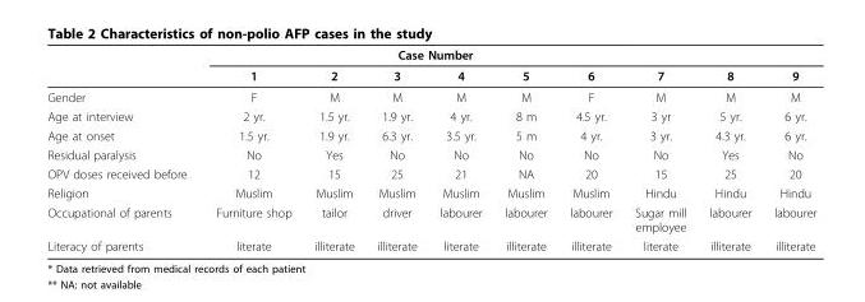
<table><thead><tr><td colspan="10">Case Number</td></tr><tr><td></td><td>1</td><td>2</td><td>3</td><td>4</td><td>5</td><td>6</td><td>7</td><td>8</td><td>9</td></tr></thead><tbody><tr><td>Gender</td><td>F</td><td>M</td><td>M</td><td>M</td><td>M</td><td>F</td><td>M</td><td>M</td><td>M</td></tr><tr><td>Age at interview</td><td>2 yr.</td><td>1.5 yr.</td><td>1.9 yr.</td><td>4 yr.</td><td>8 m</td><td>4.5 yr.</td><td>3 yr</td><td>5 yr.</td><td>6 yr.</td></tr><tr><td>Age at onset</td><td>1.5 yr.</td><td>1.9 yr.</td><td>6.3 yr.</td><td>3.5 yr.</td><td>5 m</td><td>4 yr.</td><td>3 yr.</td><td>4.3 yr.</td><td>6 yr.</td></tr><tr><td>Residual paralysis</td><td>No</td><td>Yes</td><td>No</td><td>No</td><td>No</td><td>No</td><td>No</td><td>Yes</td><td>No</td></tr><tr><td>OPV doses received before</td><td>12</td><td>15</td><td>25</td><td>21</td><td>NA</td><td>20</td><td>15</td><td>25</td><td>20</td></tr><tr><td>Religion</td><td>Muslim</td><td>Muslim</td><td>Muslim</td><td>Muslim</td><td>Muslim</td><td>Muslim</td><td>Hindu</td><td>Hindu</td><td>Hindu</td></tr><tr><td>Occupational of parents</td><td>Furniture shop</td><td>tailor</td><td>driver</td><td>labourer</td><td>labourer</td><td>labourer</td><td>Sugar mill employee</td><td>labourer</td><td>labourer</td></tr><tr><td>Literacy of parents</td><td>literate</td><td>illiterate</td><td>illiterate</td><td>literate</td><td>illiterate</td><td>illiterate</td><td>literate</td><td>illiterate</td><td>illiterate</td></tr></tbody></table>